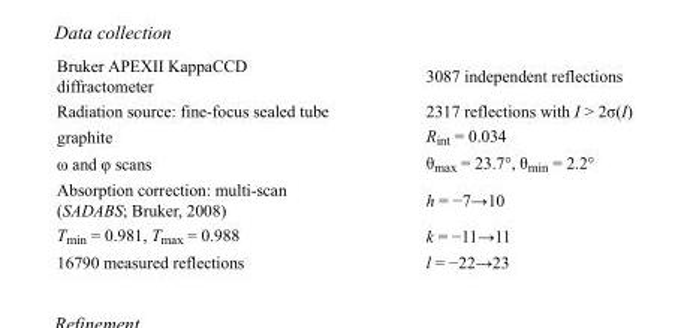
<table><tbody><tr><td>Bruker APEXII KappaCCD diffractometer</td><td>3087 independent reflections</td></tr><tr><td>Radiation source: fine-focus sealed tube</td><td>2317 reflections with I &gt; 2σ(I)</td></tr><tr><td>graphite</td><td>R<sub>int</sub> = 0.034</td></tr><tr><td>ω and φ scans</td><td>θ<sub>max</sub> = 23.7°, θ<sub>min</sub> = 2.2°</td></tr><tr><td>Absorption correction: multi-scan (SADABS; Bruker, 2008)</td><td>h = −7→10</td></tr><tr><td>T<sub>min</sub> = 0.981, T<sub>max</sub> = 0.988</td><td>k = −11→11</td></tr><tr><td>16790 measured reflections</td><td>l = −22→23</td></tr></tbody></table>